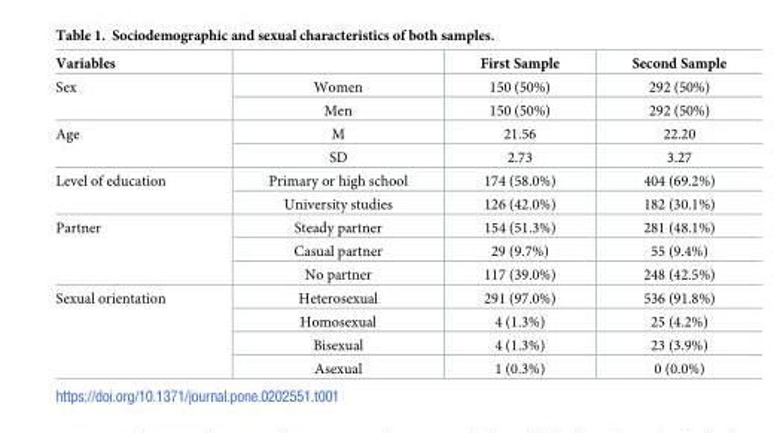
<table><thead><tr><td>Variables</td><td></td><td>First Sample</td><td>Second Sample</td></tr></thead><tbody><tr><td rowspan="2">Sex</td><td>Women</td><td>150 (50%)</td><td>292 (50%)</td></tr><tr><td>Men</td><td>150 (50%)</td><td>292 (50%)</td></tr><tr><td rowspan="2">Age</td><td>M</td><td>21.56</td><td>22.20</td></tr><tr><td>SD</td><td>2.73</td><td>3.27</td></tr><tr><td rowspan="2">Level of education</td><td>Primary or high school</td><td>174 (58.0%)</td><td>404 (69.2%)</td></tr><tr><td>University studies</td><td>126 (42.0%)</td><td>182 (30.1%)</td></tr><tr><td rowspan="3">Partner</td><td>Steady partner</td><td>154 (51.3%)</td><td>281 (48.1%)</td></tr><tr><td>Casual partner</td><td>29 (9.7%)</td><td>55 (9.4%)</td></tr><tr><td>No partner</td><td>117 (39.0%)</td><td>248 (42.5%)</td></tr><tr><td rowspan="4">Sexual orientation</td><td>Heterosexual</td><td>291 (97.0%)</td><td>536 (91.8%)</td></tr><tr><td>Homosexual</td><td>4 (1.3%)</td><td>25 (4.2%)</td></tr><tr><td>Bisexual</td><td>4 (1.3%)</td><td>23 (3.9%)</td></tr><tr><td>Asexual</td><td>1 (0.3%)</td><td>0 (0.0%)</td></tr></tbody></table>